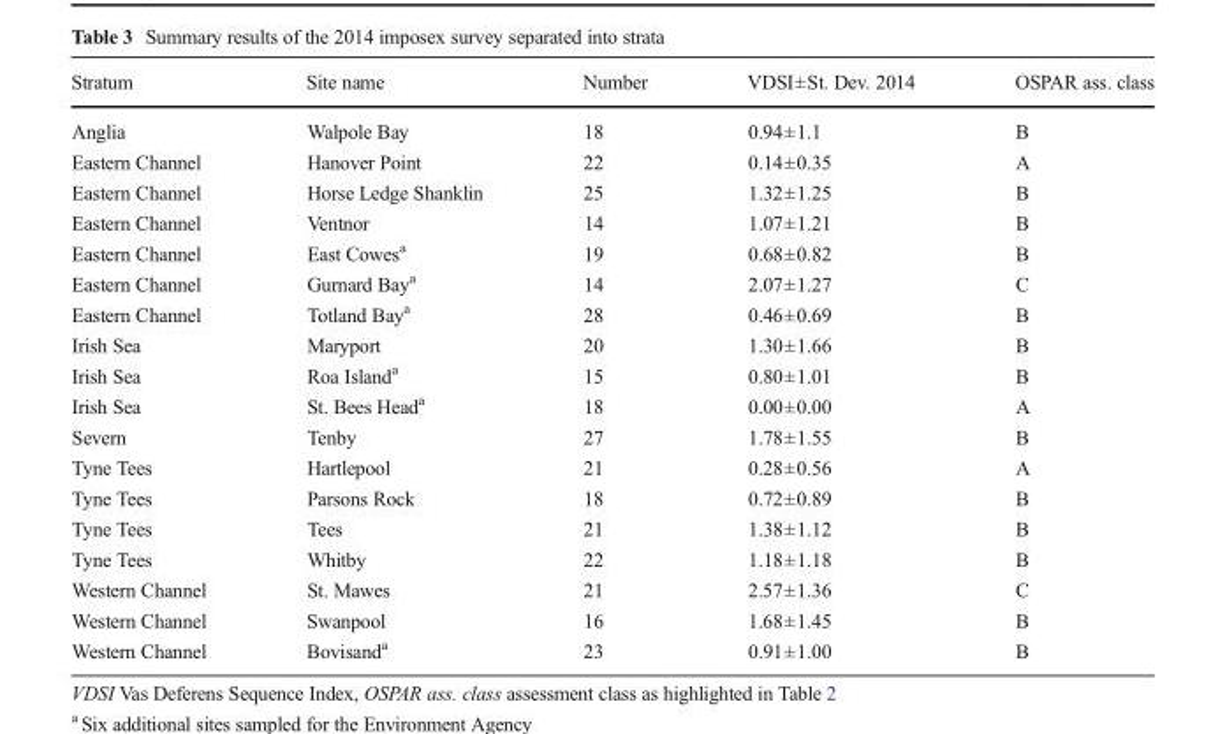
<table><thead><tr><td>Stratum</td><td>Site name</td><td>Number</td><td>VDSI±St. Dev. 2014</td><td>OSPAR ass. class</td></tr></thead><tbody><tr><td>Anglia</td><td>Walpole Bay</td><td>18</td><td>0.94±1.1</td><td>B</td></tr><tr><td>Eastern Channel</td><td>Hanover Point</td><td>22</td><td>0.14±0.35</td><td>A</td></tr><tr><td>Eastern Channel</td><td>Horse Ledge Shanklin</td><td>25</td><td>1.32±1.25</td><td>B</td></tr><tr><td>Eastern Channel</td><td>Ventnor</td><td>14</td><td>1.07±1.21</td><td>B</td></tr><tr><td>Eastern Channel</td><td>East Cowes<sup>a</sup></td><td>19</td><td>0.68±0.82</td><td>B</td></tr><tr><td>Eastern Channel</td><td>Gurnard Bay<sup>a</sup></td><td>14</td><td>2.07±1.27</td><td>C</td></tr><tr><td>Eastern Channel</td><td>Totland Bay<sup>a</sup></td><td>28</td><td>0.46±0.69</td><td>B</td></tr><tr><td>Irish Sea</td><td>Maryport</td><td>20</td><td>1.30±1.66</td><td>B</td></tr><tr><td>Irish Sea</td><td>Roa Island<sup>a</sup></td><td>15</td><td>0.80±1.01</td><td>B</td></tr><tr><td>Irish Sea</td><td>St. Bees Head<sup>a</sup></td><td>18</td><td>0.00±0.00</td><td>A</td></tr><tr><td>Severn</td><td>Tenby</td><td>27</td><td>1.78±1.55</td><td>B</td></tr><tr><td>Tyne Tees</td><td>Hartlepool</td><td>21</td><td>0.28±0.56</td><td>A</td></tr><tr><td>Tyne Tees</td><td>Parsons Rock</td><td>18</td><td>0.72±0.89</td><td>B</td></tr><tr><td>Tyne Tees</td><td>Tees</td><td>21</td><td>1.38±1.12</td><td>B</td></tr><tr><td>Tyne Tees</td><td>Whitby</td><td>22</td><td>1.18±1.18</td><td>B</td></tr><tr><td>Western Channel</td><td>St. Mawes</td><td>21</td><td>2.57±1.36</td><td>C</td></tr><tr><td>Western Channel</td><td>Swanpool</td><td>16</td><td>1.68±1.45</td><td>B</td></tr><tr><td>Western Channel</td><td>Bovisand<sup>a</sup></td><td>23</td><td>0.91±1.00</td><td>B</td></tr></tbody></table>